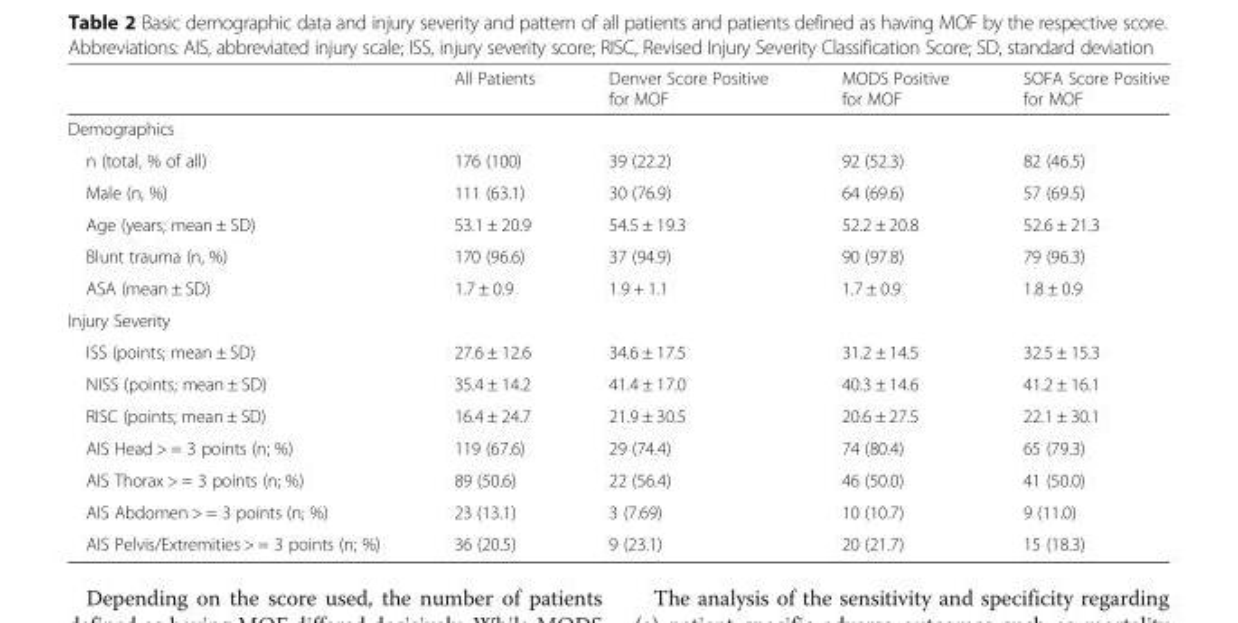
<table><thead><tr><td></td><td>All Patients</td><td>Denver Score Positive for MOF</td><td>MODS Positive for MOF</td><td>SOFA Score Positive for MOF</td></tr></thead><tbody><tr><td colspan="5">Demographics</td></tr><tr><td>n (total, % of all)</td><td>176 (100)</td><td>39 (22.2)</td><td>92 (52.3)</td><td>82 (46.5)</td></tr><tr><td>Male (n, %)</td><td>111 (63.1)</td><td>30 (76.9)</td><td>64 (69.6)</td><td>57 (69.5)</td></tr><tr><td>Age (years; mean ± SD)</td><td>53.1 ± 20.9</td><td>54.5 ± 19.3</td><td>52.2 ± 20.8</td><td>52.6 ± 21.3</td></tr><tr><td>Blunt trauma (n, %)</td><td>170 (96.6)</td><td>37 (94.9)</td><td>90 (97.8)</td><td>79 (96.3)</td></tr><tr><td>ASA (mean ± SD)</td><td>1.7 ± 0.9</td><td>1.9 + 1.1</td><td>1.7 ± 0.9</td><td>1.8 ± 0.9</td></tr><tr><td colspan="5">Injury Severity</td></tr><tr><td>ISS (points; mean ± SD)</td><td>27.6 ± 12.6</td><td>34.6 ± 17.5</td><td>31.2 ± 14.5</td><td>32.5 ± 15.3</td></tr><tr><td>NISS (points; mean ± SD)</td><td>35.4 ± 14.2</td><td>41.4 ± 17.0</td><td>40.3 ± 14.6</td><td>41.2 ± 16.1</td></tr><tr><td>RISC (points; mean ± SD)</td><td>16.4 ± 24.7</td><td>21.9 ± 30.5</td><td>20.6 ± 27.5</td><td>22.1 ± 30.1</td></tr><tr><td>AIS Head &gt; = 3 points (n; %)</td><td>119 (67.6)</td><td>29 (74.4)</td><td>74 (80.4)</td><td>65 (79.3)</td></tr><tr><td>AIS Thorax &gt; = 3 points (n; %)</td><td>89 (50.6)</td><td>22 (56.4)</td><td>46 (50.0)</td><td>41 (50.0)</td></tr><tr><td>AIS Abdomen &gt; = 3 points (n; %)</td><td>23 (13.1)</td><td>3 (7.69)</td><td>10 (10.7)</td><td>9 (11.0)</td></tr><tr><td>AIS Pelvis/Extremities &gt; = 3 points (n; %)</td><td>36 (20.5)</td><td>9 (23.1)</td><td>20 (21.7)</td><td>15 (18.3)</td></tr></tbody></table>